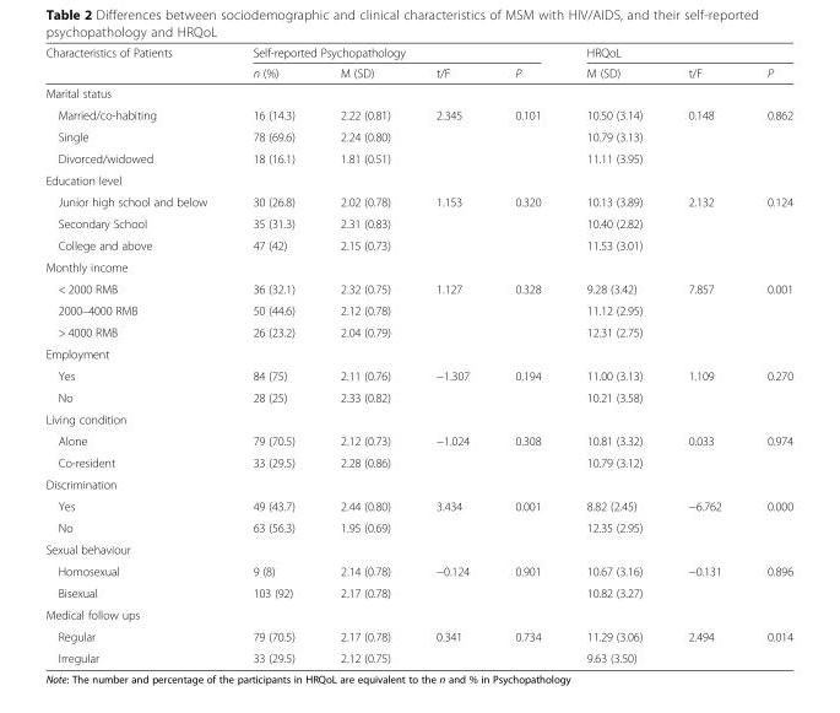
<table><thead><tr><td rowspan="2">Characteristics of Patients</td><td colspan="4">Self-reported Psychopathology</td><td colspan="3">HRQoL</td></tr><tr><td>n (%)</td><td>M (SD)</td><td>t/F</td><td>P</td><td>M (SD)</td><td>t/F</td><td>P</td></tr></thead><tbody><tr><td colspan="8">Marital status</td></tr><tr><td>Married/co-habiting</td><td>16 (14.3)</td><td>2.22 (0.81)</td><td>2.345</td><td>0.101</td><td>10.50 (3.14)</td><td>0.148</td><td>0.862</td></tr><tr><td>Single</td><td>78 (69.6)</td><td>2.24 (0.80)</td><td></td><td></td><td>10.79 (3.13)</td><td></td><td></td></tr><tr><td>Divorced/widowed</td><td>18 (16.1)</td><td>1.81 (0.51)</td><td></td><td></td><td>11.11 (3.95)</td><td></td><td></td></tr><tr><td colspan="8">Education level</td></tr><tr><td>Junior high school and below</td><td>30 (26.8)</td><td>2.02 (0.78)</td><td>1.153</td><td>0.320</td><td>10.13 (3.89)</td><td>2.132</td><td>0.124</td></tr><tr><td>Secondary School</td><td>35 (31.3)</td><td>2.31 (0.83)</td><td></td><td></td><td>10.40 (2.82)</td><td></td><td></td></tr><tr><td>College and above</td><td>47 (42)</td><td>2.15 (0.73)</td><td></td><td></td><td>11.53 (3.01)</td><td></td><td></td></tr><tr><td colspan="8">Monthly income</td></tr><tr><td>&lt; 2000 RMB</td><td>36 (32.1)</td><td>2.32 (0.75)</td><td>1.127</td><td>0.328</td><td>9.28 (3.42)</td><td>7.857</td><td>0.001</td></tr><tr><td>2000–4000 RMB</td><td>50 (44.6)</td><td>2.12 (0.78)</td><td></td><td></td><td>11.12 (2.95)</td><td></td><td></td></tr><tr><td>&gt; 4000 RMB</td><td>26 (23.2)</td><td>2.04 (0.79)</td><td></td><td></td><td>12.31 (2.75)</td><td></td><td></td></tr><tr><td colspan="8">Employment</td></tr><tr><td>Yes</td><td>84 (75)</td><td>2.11 (0.76)</td><td>−1.307</td><td>0.194</td><td>11.00 (3.13)</td><td>1.109</td><td>0.270</td></tr><tr><td>No</td><td>28 (25)</td><td>2.33 (0.82)</td><td></td><td></td><td>10.21 (3.58)</td><td></td><td></td></tr><tr><td colspan="8">Living condition</td></tr><tr><td>Alone</td><td>79 (70.5)</td><td>2.12 (0.73)</td><td>−1.024</td><td>0.308</td><td>10.81 (3.32)</td><td>0.033</td><td>0.974</td></tr><tr><td>Co-resident</td><td>33 (29.5)</td><td>2.28 (0.86)</td><td></td><td></td><td>10.79 (3.12)</td><td></td><td></td></tr><tr><td colspan="8">Discrimination</td></tr><tr><td>Yes</td><td>49 (43.7)</td><td>2.44 (0.80)</td><td>3.434</td><td>0.001</td><td>8.82 (2.45)</td><td>−6.762</td><td>0.000</td></tr><tr><td>No</td><td>63 (56.3)</td><td>1.95 (0.69)</td><td></td><td></td><td>12.35 (2.95)</td><td></td><td></td></tr><tr><td colspan="8">Sexual behaviour</td></tr><tr><td>Homosexual</td><td>9 (8)</td><td>2.14 (0.78)</td><td>−0.124</td><td>0.901</td><td>10.67 (3.16)</td><td>−0.131</td><td>0.896</td></tr><tr><td>Bisexual</td><td>103 (92)</td><td>2.17 (0.78)</td><td></td><td></td><td>10.82 (3.27)</td><td></td><td></td></tr><tr><td colspan="8">Medical follow ups</td></tr><tr><td>Regular</td><td>79 (70.5)</td><td>2.17 (0.78)</td><td>0.341</td><td>0.734</td><td>11.29 (3.06)</td><td>2.494</td><td>0.014</td></tr><tr><td>Irregular</td><td>33 (29.5)</td><td>2.12 (0.75)</td><td></td><td></td><td>9.63 (3.50)</td><td></td><td></td></tr></tbody></table>